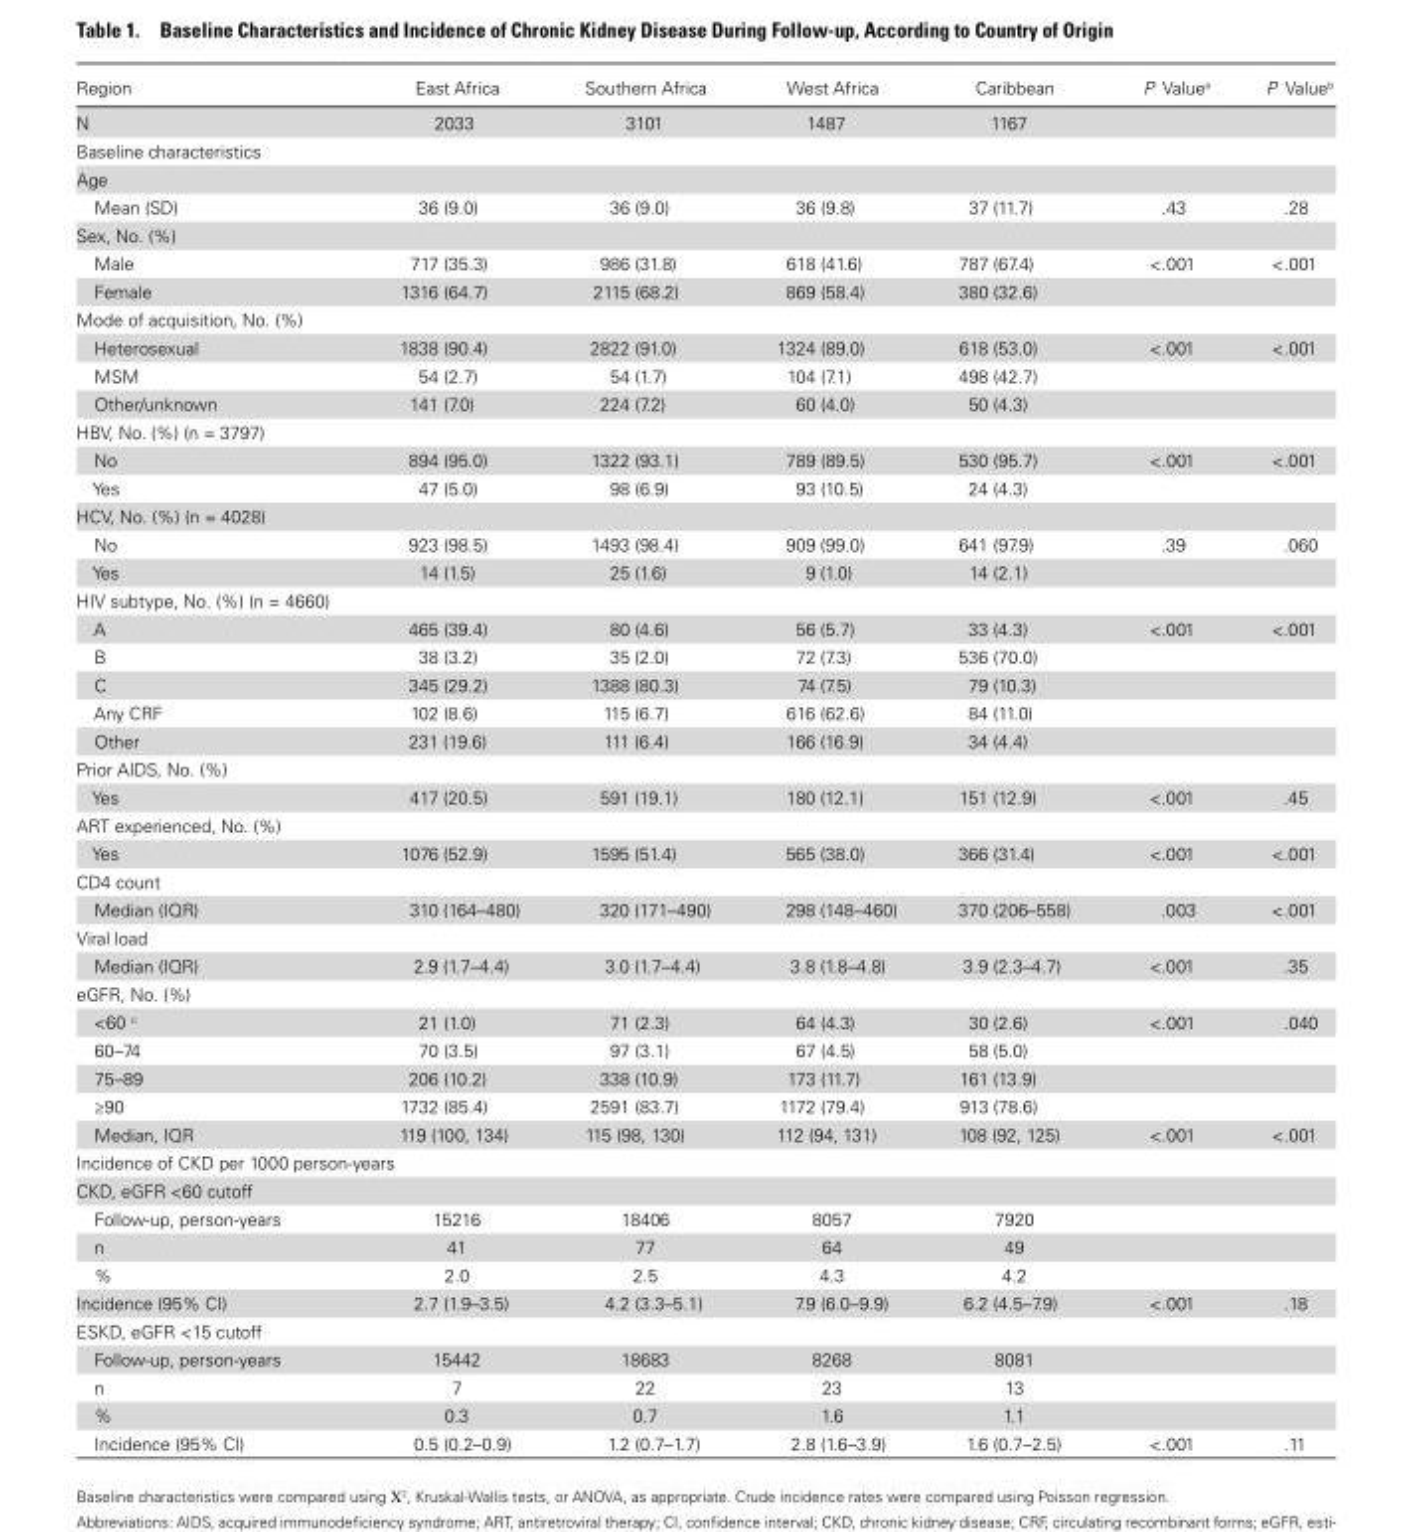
<table><thead><tr><td>Region</td><td>East Africa</td><td>Southern Africa</td><td>West Africa</td><td>Caribbean</td><td>P Value<sup>a</sup></td><td>P Value<sup>b</sup></td></tr></thead><tbody><tr><td>N</td><td>2033</td><td>3101</td><td>1487</td><td>1167</td><td></td><td></td></tr><tr><td colspan="7">Baseline characteristics</td></tr><tr><td colspan="7">Age</td></tr><tr><td>Mean (SD)</td><td>36 (9.0)</td><td>36 (9.0)</td><td>36 (9.8)</td><td>37 (11.7)</td><td>.43</td><td>.28</td></tr><tr><td colspan="7">Sex, No. (%)</td></tr><tr><td>Male</td><td>717 (35.3)</td><td>986 (31.8)</td><td>618 (41.6)</td><td>787 (67.4)</td><td>&lt;.001</td><td>&lt;.001</td></tr><tr><td>Female</td><td>1316 (64.7)</td><td>2115 (68.2)</td><td>869 (58.4)</td><td>380 (32.6)</td><td></td><td></td></tr><tr><td colspan="7">Mode of acquisition, No. (%)</td></tr><tr><td>Heterosexual</td><td>1838 (90.4)</td><td>2822 (91.0)</td><td>1324 (89.0)</td><td>618 (53.0)</td><td>&lt;.001</td><td>&lt;.001</td></tr><tr><td>MSM</td><td>54 (2.7)</td><td>54 (1.7)</td><td>104 (7.1)</td><td>498 (42.7)</td><td></td><td></td></tr><tr><td>Other/unknown</td><td>141 (7.0)</td><td>224 (7.2)</td><td>60 (4.0)</td><td>50 (4.3)</td><td></td><td></td></tr><tr><td colspan="7">HBV, No. (%) (n = 3797)</td></tr><tr><td>No</td><td>894 (95.0)</td><td>1322 (93.1)</td><td>789 (89.5)</td><td>530 (95.7)</td><td>&lt;.001</td><td>&lt;.001</td></tr><tr><td>Yes</td><td>47 (5.0)</td><td>98 (6.9)</td><td>93 (10.5)</td><td>24 (4.3)</td><td></td><td></td></tr><tr><td colspan="7">HCV, No. (%) (n = 4028)</td></tr><tr><td>No</td><td>923 (98.5)</td><td>1493 (98.4)</td><td>909 (99.0)</td><td>641 (97.9)</td><td>.39</td><td>.060</td></tr><tr><td>Yes</td><td>14 (1.5)</td><td>25 (1.6)</td><td>9 (1.0)</td><td>14 (2.1)</td><td></td><td></td></tr><tr><td colspan="7">HIV subtype, No. (%) (n = 4660)</td></tr><tr><td>A</td><td>465 (39.4)</td><td>80 (4.6)</td><td>56 (5.7)</td><td>33 (4.3)</td><td>&lt;.001</td><td>&lt;.001</td></tr><tr><td>B</td><td>38 (3.2)</td><td>35 (2.0)</td><td>72 (7.3)</td><td>536 (70.0)</td><td></td><td></td></tr><tr><td>C</td><td>345 (29.2)</td><td>1388 (80.3)</td><td>74 (7.5)</td><td>79 (10.3)</td><td></td><td></td></tr><tr><td>Any CRF</td><td>102 (8.6)</td><td>115 (6.7)</td><td>616 (62.6)</td><td>84 (11.0)</td><td></td><td></td></tr><tr><td>Other</td><td>231 (19.6)</td><td>111 (6.4)</td><td>166 (16.9)</td><td>34 (4.4)</td><td></td><td></td></tr><tr><td colspan="7">Prior AIDS, No. (%)</td></tr><tr><td>Yes</td><td>417 (20.5)</td><td>591 (19.1)</td><td>180 (12.1)</td><td>151 (12.9)</td><td>&lt;.001</td><td>.45</td></tr><tr><td colspan="7">ART experienced, No. (%)</td></tr><tr><td>Yes</td><td>1076 (52.9)</td><td>1595 (51.4)</td><td>565 (38.0)</td><td>366 (31.4)</td><td>&lt;.001</td><td>&lt;.001</td></tr><tr><td colspan="7">CD4 count</td></tr><tr><td>Median (IQR)</td><td>310 (164–480)</td><td>320 (171–490)</td><td>298 (148–460)</td><td>370 (206–558)</td><td>.003</td><td>&lt;.001</td></tr><tr><td colspan="7">Viral load</td></tr><tr><td>Median (IQR)</td><td>2.9 (1.7–4.4)</td><td>3.0 (1.7–4.4)</td><td>3.8 (1.8–4.8)</td><td>3.9 (2.3–4.7)</td><td>&lt;.001</td><td>.35</td></tr><tr><td colspan="7">eGFR, No. (%)</td></tr><tr><td>&lt;60 <sup>c</sup></td><td>21 (1.0)</td><td>71 (2.3)</td><td>64 (4.3)</td><td>30 (2.6)</td><td>&lt;.001</td><td>.040</td></tr><tr><td>60–74</td><td>70 (3.5)</td><td>97 (3.1)</td><td>67 (4.5)</td><td>58 (5.0)</td><td></td><td></td></tr><tr><td>75–89</td><td>206 (10.2)</td><td>338 (10.9)</td><td>173 (11.7)</td><td>161 (13.9)</td><td></td><td></td></tr><tr><td>≥90</td><td>1732 (85.4)</td><td>2591 (83.7)</td><td>1172 (79.4)</td><td>913 (78.6)</td><td></td><td></td></tr><tr><td>Median, IQR</td><td>119 (100, 134)</td><td>115 (98, 130)</td><td>112 (94, 131)</td><td>108 (92, 125)</td><td>&lt;.001</td><td>&lt;.001</td></tr><tr><td colspan="7">Incidence of CKD per 1000 person-years</td></tr><tr><td colspan="7">CKD, eGFR &lt;60 cutoff</td></tr><tr><td>Follow-up, person-years</td><td>15216</td><td>18406</td><td>8057</td><td>7920</td><td></td><td></td></tr><tr><td>n</td><td>41</td><td>77</td><td>64</td><td>49</td><td></td><td></td></tr><tr><td>%</td><td>2.0</td><td>2.5</td><td>4.3</td><td>4.2</td><td></td><td></td></tr><tr><td>Incidence (95% CI)</td><td>2.7 (1.9–3.5)</td><td>4.2 (3.3–5.1)</td><td>7.9 (6.0–9.9)</td><td>6.2 (4.5–7.9)</td><td>&lt;.001</td><td>.18</td></tr><tr><td colspan="7">ESKD, eGFR &lt;15 cutoff</td></tr><tr><td>Follow-up, person-years</td><td>15442</td><td>18683</td><td>8268</td><td>8081</td><td></td><td></td></tr><tr><td>n</td><td>7</td><td>22</td><td>23</td><td>13</td><td></td><td></td></tr><tr><td>%</td><td>0.3</td><td>0.7</td><td>1.6</td><td>1.1</td><td></td><td></td></tr><tr><td>Incidence (95% CI)</td><td>0.5 (0.2–0.9)</td><td>1.2 (0.7–1.7)</td><td>2.8 (1.6–3.9)</td><td>1.6 (0.7–2.5)</td><td>&lt;.001</td><td>.11</td></tr></tbody></table>